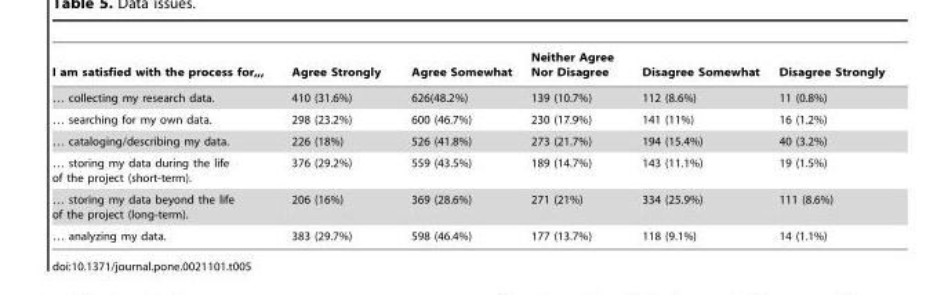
<table><thead><tr><td>I am satisfied with the process for,,,</td><td>Agree Strongly</td><td>Agree Somewhat</td><td>Neither Agree Nor Disagree</td><td>Disagree Somewhat</td><td>Disagree Strongly</td></tr></thead><tbody><tr><td>… collecting my research data.</td><td>410 (31.6%)</td><td>626(48.2%)</td><td>139 (10.7%)</td><td>112 (8.6%)</td><td>11 (0.8%)</td></tr><tr><td>… searching for my own data.</td><td>298 (23.2%)</td><td>600 (46.7%)</td><td>230 (17.9%)</td><td>141 (11%)</td><td>16 (1.2%)</td></tr><tr><td>… cataloging/describing my data.</td><td>226 (18%)</td><td>526 (41.8%)</td><td>273 (21.7%)</td><td>194 (15.4%)</td><td>40 (3.2%)</td></tr><tr><td>… storing my data during the life of the project (short-term).</td><td>376 (29.2%)</td><td>559 (43.5%)</td><td>189 (14.7%)</td><td>143 (11.1%)</td><td>19 (1.5%)</td></tr><tr><td>… storing my data beyond the life of the project (long-term).</td><td>206 (16%)</td><td>369 (28.6%)</td><td>271 (21%)</td><td>334 (25.9%)</td><td>111 (8.6%)</td></tr><tr><td>… analyzing my data.</td><td>383 (29.7%)</td><td>598 (46.4%)</td><td>177 (13.7%)</td><td>118 (9.1%)</td><td>14 (1.1%)</td></tr></tbody></table>